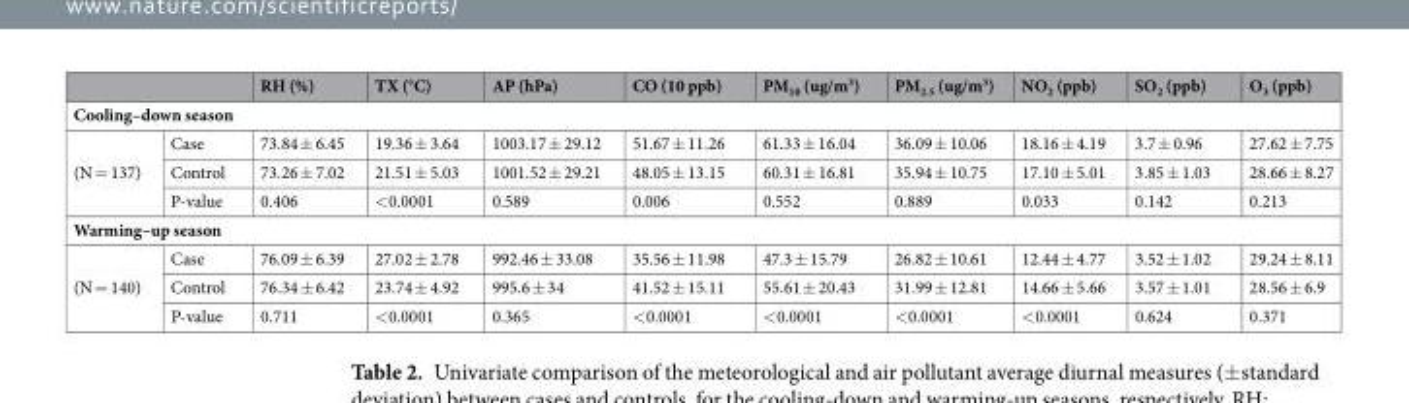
<table><thead><tr><td></td><td></td><td>RH (%)</td><td>TX (°C)</td><td>AP (hPa)</td><td>CO (10 ppb)</td><td>PM<sub>10</sub> (ug/m<sup>3</sup>)</td><td>PM<sub>2.5</sub> (ug/m<sup>3</sup>)</td><td>NO<sub>2</sub> (ppb)</td><td>SO<sub>2</sub> (ppb)</td><td>O<sub>3</sub> (ppb)</td></tr></thead><tbody><tr><td colspan="11">Cooling–down season</td></tr><tr><td rowspan="3">(N = 137)</td><td>Case</td><td>73.84 ± 6.45</td><td>19.36 ± 3.64</td><td>1003.17 ± 29.12</td><td>51.67 ± 11.26</td><td>61.33 ± 16.04</td><td>36.09 ± 10.06</td><td>18.16 ± 4.19</td><td>3.7 ± 0.96</td><td>27.62 ± 7.75</td></tr><tr><td>Control</td><td>73.26 ± 7.02</td><td>21.51 ± 5.03</td><td>1001.52 ± 29.21</td><td>48.05 ± 13.15</td><td>60.31 ± 16.81</td><td>35.94 ± 10.75</td><td>17.10 ± 5.01</td><td>3.85 ± 1.03</td><td>28.66 ± 8.27</td></tr><tr><td>P-value</td><td>0.406</td><td>&lt;0.0001</td><td>0.589</td><td>0.006</td><td>0.552</td><td>0.889</td><td>0.033</td><td>0.142</td><td>0.213</td></tr><tr><td colspan="11">Warming–up season</td></tr><tr><td rowspan="3">(N = 140)</td><td>Case</td><td>76.09 ± 6.39</td><td>27.02 ± 2.78</td><td>992.46 ± 33.08</td><td>35.56 ± 11.98</td><td>47.3 ± 15.79</td><td>26.82 ± 10.61</td><td>12.44 ± 4.77</td><td>3.52 ± 1.02</td><td>29.24 ± 8.11</td></tr><tr><td>Control</td><td>76.34 ± 6.42</td><td>23.74 ± 4.92</td><td>995.6 ± 34</td><td>41.52 ± 15.11</td><td>55.61 ± 20.43</td><td>31.99 ± 12.81</td><td>14.66 ± 5.66</td><td>3.57 ± 1.01</td><td>28.56 ± 6.9</td></tr><tr><td>P-value</td><td>0.711</td><td>&lt;0.0001</td><td>0.365</td><td>&lt;0.0001</td><td>&lt;0.0001</td><td>&lt;0.0001</td><td>&lt;0.0001</td><td>0.624</td><td>0.371</td></tr></tbody></table>